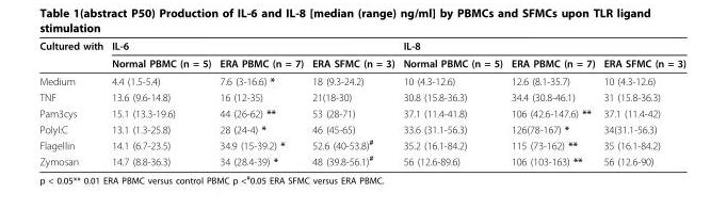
<table><thead><tr><td rowspan="2">Cultured with</td><td colspan="3">IL-6</td><td colspan="3">IL-8</td></tr><tr><td>Normal PBMC (n = 5)</td><td>ERA PBMC (n = 7)</td><td>ERA SFMC (n = 3)</td><td>Normal PBMC (n = 5)</td><td>ERA PBMC (n = 7)</td><td>ERA SFMC (n = 3)</td></tr></thead><tbody><tr><td>Medium</td><td>4.4 (1.5-5.4)</td><td>7.6 (3-16.6) *</td><td>18 (9.3-24.2)</td><td>10 (4.3-12.6)</td><td>12.6 (8.1-35.7)</td><td>10 (4.3-12.6)</td></tr><tr><td>TNF</td><td>13.6 (9.6-14.8)</td><td>16 (12-35)</td><td>21(18-30)</td><td>30.8 (15.8-36.3)</td><td>34.4 (30.8-46.1)</td><td>31 (15.8-36.3)</td></tr><tr><td>Pam3cys</td><td>15.1 (13.3-19.6)</td><td>44 (26-62) **</td><td>53 (28-71)</td><td>37.1 (11.4-41.8)</td><td>106 (42.6-147.6) **</td><td>37.1 (11.4-42)</td></tr><tr><td>PolyI:C</td><td>13.1 (1.3-25.8)</td><td>28 (24-4) *</td><td>46 (45-65)</td><td>33.6 (31.1-56.3)</td><td>126(78-167) *</td><td>34(31.1-56.3)</td></tr><tr><td>Flagellin</td><td>14.1 (6.7-23.5)</td><td>34.9 (15-39.2) *</td><td>52.6 (40-53.8)<sup>#</sup></td><td>35.2 (16.1-84.2)</td><td>115 (73-162) **</td><td>35 (16.1-84.2)</td></tr><tr><td>Zymosan</td><td>14.7 (8.8-36.3)</td><td>34 (28.4-39) *</td><td>48 (39.8-56.1)<sup>#</sup></td><td>56 (12.6-89.6)</td><td>106 (103-163) **</td><td>56 (12.6-90)</td></tr></tbody></table>